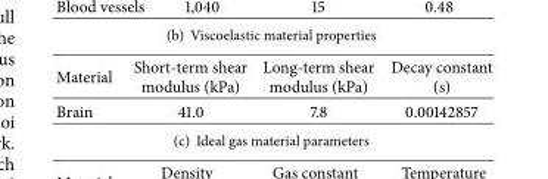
<table><thead><tr><td>Material</td><td>Short-term shear modulus (kPa)</td><td>Long-term shear modulus (kPa)</td><td>Decay constant (s)</td></tr></thead><tbody><tr><td>Brain</td><td>41.0</td><td>7.8</td><td>0.00142857</td></tr></tbody></table>